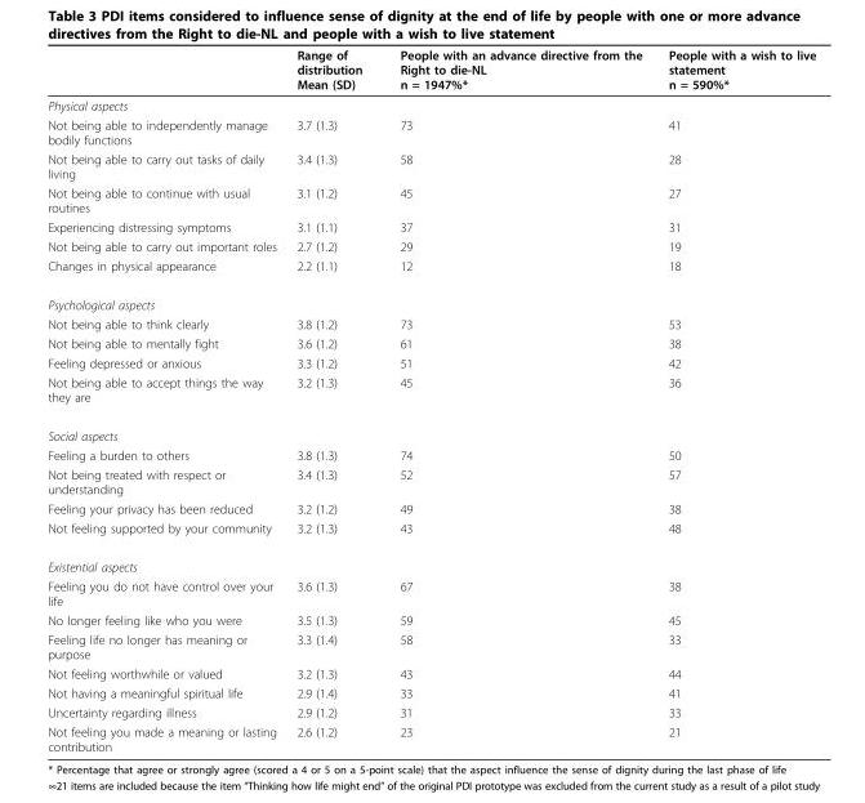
<table><thead><tr><td></td><td>Range of distribution Mean (SD)</td><td>People with an advance directive from the Right to die-NL n = 1947%*</td><td>People with a wish to live statement n = 590%*</td></tr></thead><tbody><tr><td colspan="4">Physical aspects</td></tr><tr><td>Not being able to independently manage bodily functions</td><td>3.7 (1.3)</td><td>73</td><td>41</td></tr><tr><td>Not being able to carry out tasks of daily living</td><td>3.4 (1.3)</td><td>58</td><td>28</td></tr><tr><td>Not being able to continue with usual routines</td><td>3.1 (1.2)</td><td>45</td><td>27</td></tr><tr><td>Experiencing distressing symptoms</td><td>3.1 (1.1)</td><td>37</td><td>31</td></tr><tr><td>Not being able to carry out important roles</td><td>2.7 (1.2)</td><td>29</td><td>19</td></tr><tr><td>Changes in physical appearance</td><td>2.2 (1.1)</td><td>12</td><td>18</td></tr><tr><td colspan="4">Psychological aspects</td></tr><tr><td>Not being able to think clearly</td><td>3.8 (1.2)</td><td>73</td><td>53</td></tr><tr><td>Not being able to mentally fight</td><td>3.6 (1.2)</td><td>61</td><td>38</td></tr><tr><td>Feeling depressed or anxious</td><td>3.3 (1.2)</td><td>51</td><td>42</td></tr><tr><td>Not being able to accept things the way they are</td><td>3.2 (1.3)</td><td>45</td><td>36</td></tr><tr><td colspan="4">Social aspects</td></tr><tr><td>Feeling a burden to others</td><td>3.8 (1.3)</td><td>74</td><td>50</td></tr><tr><td>Not being treated with respect or understanding</td><td>3.4 (1.3)</td><td>52</td><td>57</td></tr><tr><td>Feeling your privacy has been reduced</td><td>3.2 (1.2)</td><td>49</td><td>38</td></tr><tr><td>Not feeling supported by your community</td><td>3.2 (1.3)</td><td>43</td><td>48</td></tr><tr><td colspan="4">Existential aspects</td></tr><tr><td>Feeling you do not have control over your life</td><td>3.6 (1.3)</td><td>67</td><td>38</td></tr><tr><td>No longer feeling like who you were</td><td>3.5 (1.3)</td><td>59</td><td>45</td></tr><tr><td>Feeling life no longer has meaning or purpose</td><td>3.3 (1.4)</td><td>58</td><td>33</td></tr><tr><td>Not feeling worthwhile or valued</td><td>3.2 (1.3)</td><td>43</td><td>44</td></tr><tr><td>Not having a meaningful spiritual life</td><td>2.9 (1.4)</td><td>33</td><td>41</td></tr><tr><td>Uncertainty regarding illness</td><td>2.9 (1.2)</td><td>31</td><td>33</td></tr><tr><td>Not feeling you made a meaning or lasting contribution</td><td>2.6 (1.2)</td><td>23</td><td>21</td></tr></tbody></table>